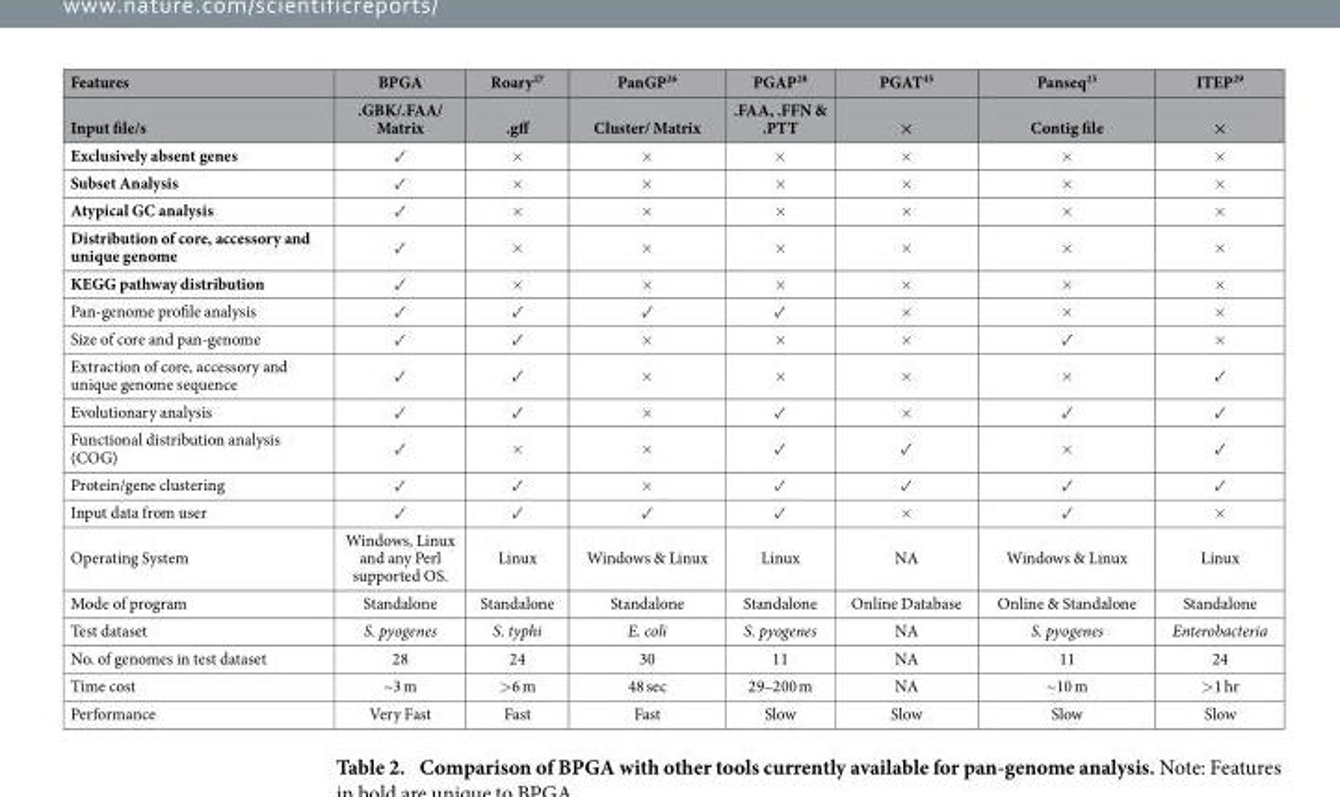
<table><thead><tr><td rowspan="2">Features Input file/s</td><td rowspan="2">BPGA .GBK/.FAA/ Matrix</td><td rowspan="2">Roary<sup>27</sup> .gff</td><td rowspan="2">PanGP<sup>26</sup> Cluster/ Matrix</td><td rowspan="2">PGAP<sup>28</sup> .FAA, .FFN &amp; .PTT</td><td rowspan="2">PGAT<sup>45</sup> ×</td><td rowspan="2">Panseq<sup>25</sup> Contig file</td><td rowspan="2">ITEP<sup>29</sup> ×</td></tr><tr></tr></thead><tbody><tr><td>Exclusively absent genes</td><td>✓</td><td>×</td><td>×</td><td>×</td><td>×</td><td>×</td><td>×</td></tr><tr><td>Subset Analysis</td><td>✓</td><td>×</td><td>×</td><td>×</td><td>×</td><td>×</td><td>×</td></tr><tr><td>Atypical GC analysis</td><td>✓</td><td>×</td><td>×</td><td>×</td><td>×</td><td>×</td><td>×</td></tr><tr><td>Distribution of core, accessory and unique genome</td><td>✓</td><td>×</td><td>×</td><td>×</td><td>×</td><td>×</td><td>×</td></tr><tr><td>KEGG pathway distribution</td><td>✓</td><td>×</td><td>×</td><td>×</td><td>×</td><td>×</td><td>×</td></tr><tr><td>Pan-genome profile analysis</td><td>✓</td><td>✓</td><td>✓</td><td>✓</td><td>×</td><td>×</td><td>×</td></tr><tr><td>Size of core and pan-genome</td><td>✓</td><td>✓</td><td>×</td><td>×</td><td>×</td><td>✓</td><td>×</td></tr><tr><td>Extraction of core, accessory and unique genome sequence</td><td>✓</td><td>✓</td><td>×</td><td>×</td><td>×</td><td>×</td><td>✓</td></tr><tr><td>Evolutionary analysis</td><td>✓</td><td>✓</td><td>×</td><td>✓</td><td>×</td><td>✓</td><td>✓</td></tr><tr><td>Functional distribution analysis (COG)</td><td>✓</td><td>×</td><td>×</td><td>✓</td><td>✓</td><td>×</td><td>✓</td></tr><tr><td>Protein/gene clustering</td><td>✓</td><td>✓</td><td>×</td><td>✓</td><td>✓</td><td>✓</td><td>✓</td></tr><tr><td>Input data from user</td><td>✓</td><td>✓</td><td>✓</td><td>✓</td><td>×</td><td>✓</td><td>×</td></tr><tr><td>Operating System</td><td>Windows, Linux and any Perl supported OS.</td><td>Linux</td><td>Windows &amp; Linux</td><td>Linux</td><td>NA</td><td>Windows &amp; Linux</td><td>Linux</td></tr><tr><td>Mode of program</td><td>Standalone</td><td>Standalone</td><td>Standalone</td><td>Standalone</td><td>Online Database</td><td>Online &amp; Standalone</td><td>Standalone</td></tr><tr><td>Test dataset</td><td>S. pyogenes</td><td>S. typhi</td><td>E. coli</td><td>S. pyogenes</td><td>NA</td><td>S. pyogenes</td><td>Enterobacteria</td></tr><tr><td>No. of genomes in test dataset</td><td>28</td><td>24</td><td>30</td><td>11</td><td>NA</td><td>11</td><td>24</td></tr><tr><td>Time cost</td><td>~3 m</td><td>&gt;6 m</td><td>48 sec</td><td>29–200 m</td><td>NA</td><td>~10 m</td><td>&gt;1 hr</td></tr><tr><td>Performance</td><td>Very Fast</td><td>Fast</td><td>Fast</td><td>Slow</td><td>Slow</td><td>Slow</td><td>Slow</td></tr></tbody></table>